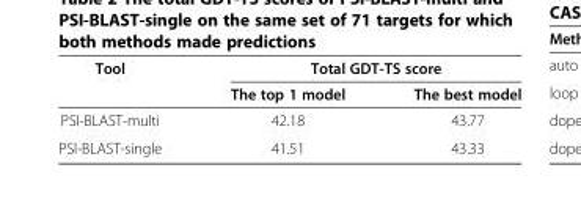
<table><thead><tr><td rowspan="2">Tool</td><td colspan="2">Total GDT-TS score</td></tr><tr><td>The top 1 model</td><td>The best model</td></tr></thead><tbody><tr><td>PSI-BLAST-multi</td><td>42.18</td><td>43.77</td></tr><tr><td>PSI-BLAST-single</td><td>41.51</td><td>43.33</td></tr></tbody></table>